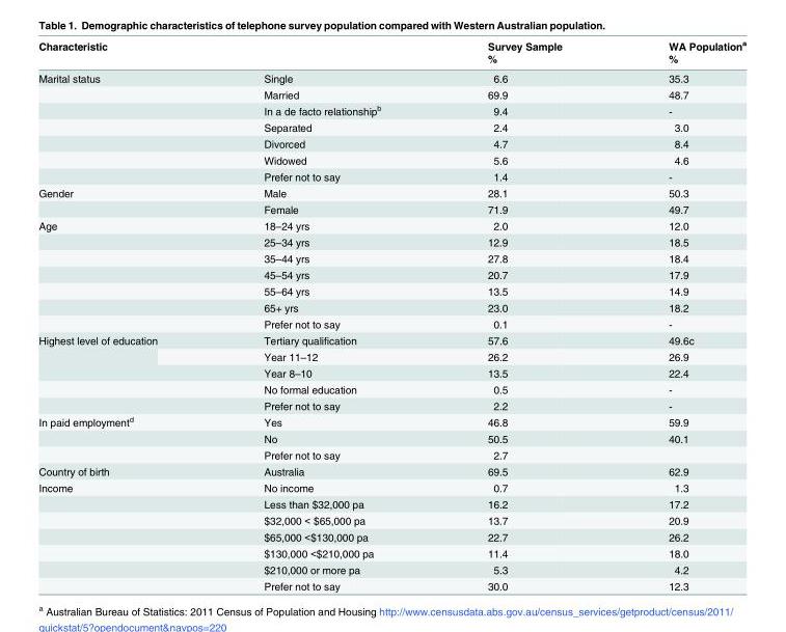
<table><thead><tr><td rowspan="2">Characteristic</td><td rowspan="2"></td><td rowspan="2">Survey Sample %</td><td rowspan="2">WA Population<sup>a</sup> %</td></tr><tr></tr></thead><tbody><tr><td rowspan="7">Marital status</td><td>Single</td><td>6.6</td><td>35.3</td></tr><tr><td>Married</td><td>69.9</td><td>48.7</td></tr><tr><td>In a de facto relationship<sup>b</sup></td><td>9.4</td><td>-</td></tr><tr><td>Separated</td><td>2.4</td><td>3.0</td></tr><tr><td>Divorced</td><td>4.7</td><td>8.4</td></tr><tr><td>Widowed</td><td>5.6</td><td>4.6</td></tr><tr><td>Prefer not to say</td><td>1.4</td><td>-</td></tr><tr><td rowspan="2">Gender</td><td>Male</td><td>28.1</td><td>50.3</td></tr><tr><td>Female</td><td>71.9</td><td>49.7</td></tr><tr><td rowspan="7">Age</td><td>18–24 yrs</td><td>2.0</td><td>12.0</td></tr><tr><td>25–34 yrs</td><td>12.9</td><td>18.5</td></tr><tr><td>35–44 yrs</td><td>27.8</td><td>18.4</td></tr><tr><td>45–54 yrs</td><td>20.7</td><td>17.9</td></tr><tr><td>55–64 yrs</td><td>13.5</td><td>14.9</td></tr><tr><td>65+ yrs</td><td>23.0</td><td>18.2</td></tr><tr><td>Prefer not to say</td><td>0.1</td><td>-</td></tr><tr><td rowspan="5">Highest level of education</td><td>Tertiary qualification</td><td>57.6</td><td>49.6c</td></tr><tr><td>Year 11–12</td><td>26.2</td><td>26.9</td></tr><tr><td>Year 8–10</td><td>13.5</td><td>22.4</td></tr><tr><td>No formal education</td><td>0.5</td><td>-</td></tr><tr><td>Prefer not to say</td><td>2.2</td><td>-</td></tr><tr><td rowspan="3">In paid employment<sup>d</sup></td><td>Yes</td><td>46.8</td><td>59.9</td></tr><tr><td>No</td><td>50.5</td><td>40.1</td></tr><tr><td>Prefer not to say</td><td>2.7</td><td></td></tr><tr><td>Country of birth</td><td>Australia</td><td>69.5</td><td>62.9</td></tr><tr><td rowspan="7">Income</td><td>No income</td><td>0.7</td><td>1.3</td></tr><tr><td>Less than $32,000 pa</td><td>16.2</td><td>17.2</td></tr><tr><td>$32,000 &lt; $65,000 pa</td><td>13.7</td><td>20.9</td></tr><tr><td>$65,000 &lt;$130,000 pa</td><td>22.7</td><td>26.2</td></tr><tr><td>$130,000 &lt;$210,000 pa</td><td>11.4</td><td>18.0</td></tr><tr><td>$210,000 or more pa</td><td>5.3</td><td>4.2</td></tr><tr><td>Prefer not to say</td><td>30.0</td><td>12.3</td></tr></tbody></table>